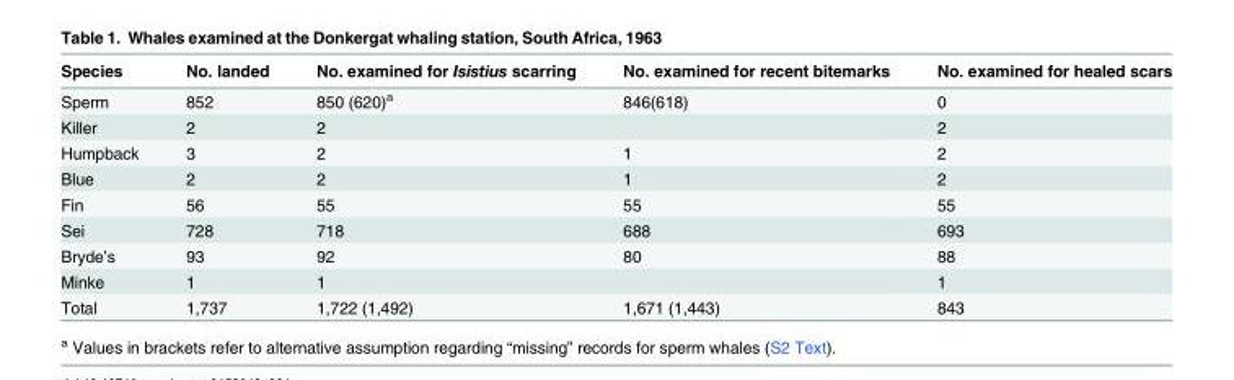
<table><thead><tr><td>Species</td><td>No. landed</td><td>No. examined for Isistius scarring</td><td>No. examined for recent bitemarks</td><td>No. examined for healed scars</td></tr></thead><tbody><tr><td>Sperm</td><td>852</td><td>850 (620)<sup>a</sup></td><td>846(618)</td><td>0</td></tr><tr><td>Killer</td><td>2</td><td>2</td><td></td><td>2</td></tr><tr><td>Humpback</td><td>3</td><td>2</td><td>1</td><td>2</td></tr><tr><td>Blue</td><td>2</td><td>2</td><td>1</td><td>2</td></tr><tr><td>Fin</td><td>56</td><td>55</td><td>55</td><td>55</td></tr><tr><td>Sei</td><td>728</td><td>718</td><td>688</td><td>693</td></tr><tr><td>Bryde’s</td><td>93</td><td>92</td><td>80</td><td>88</td></tr><tr><td>Minke</td><td>1</td><td>1</td><td></td><td>1</td></tr><tr><td>Total</td><td>1,737</td><td>1,722 (1,492)</td><td>1,671 (1,443)</td><td>843</td></tr></tbody></table>